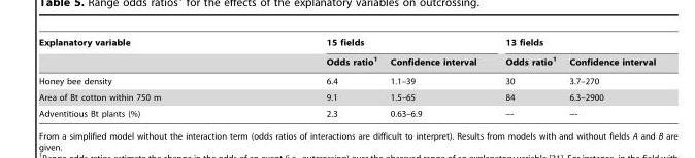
<table><thead><tr><td rowspan="2">Explanatory variable</td><td colspan="2">15 fields</td><td colspan="2">13 fields</td></tr><tr><td>Odds ratio<sup>1</sup></td><td>Confidence interval</td><td>Odds ratio<sup>1</sup></td><td>Confidence interval</td></tr></thead><tbody><tr><td>Honey bee density</td><td>6.4</td><td>1.1–39</td><td>30</td><td>3.7–270</td></tr><tr><td>Area of Bt cotton within 750 m</td><td>9.1</td><td>1.5–65</td><td>84</td><td>6.3–2900</td></tr><tr><td>Adventitious Bt plants (%)</td><td>2.3</td><td>0.63–6.9</td><td>---</td><td>---</td></tr></tbody></table>